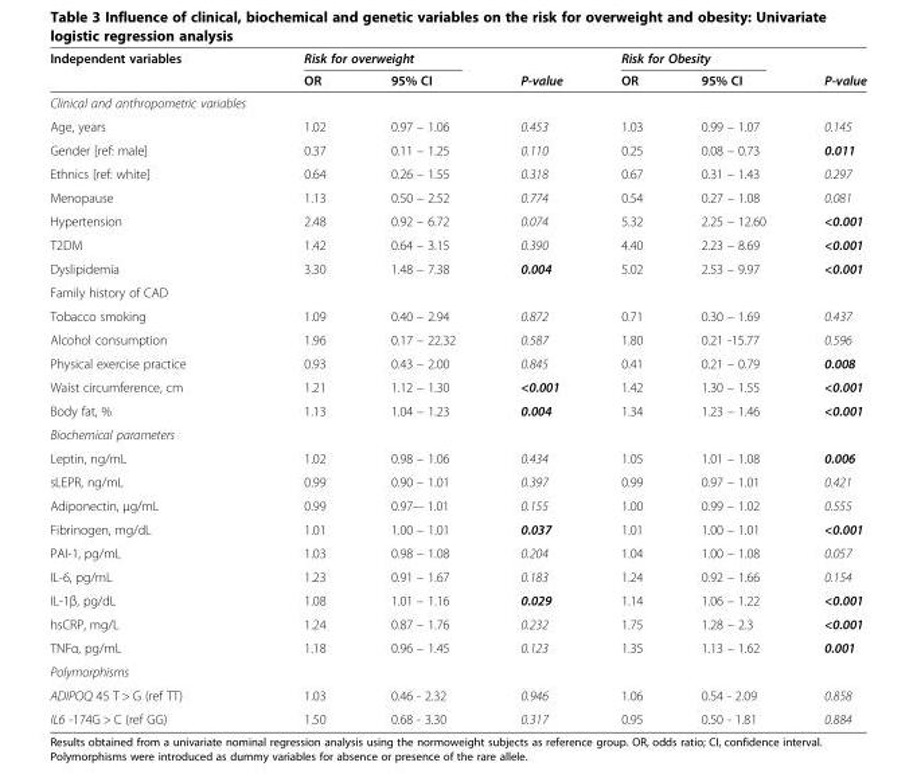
<table><thead><tr><td rowspan="2">Independent variables</td><td colspan="2">Risk for overweight</td><td rowspan="2">P-value</td><td colspan="2">Risk for Obesity</td><td rowspan="2">P-value</td></tr><tr><td>OR</td><td>95% CI</td><td>OR</td><td>95% CI</td></tr></thead><tbody><tr><td colspan="7">Clinical and anthropometric variables</td></tr><tr><td>Age, years</td><td>1.02</td><td>0.97 – 1.06</td><td>0.453</td><td>1.03</td><td>0.99 – 1.07</td><td>0.145</td></tr><tr><td>Gender [ref: male]</td><td>0.37</td><td>0.11 – 1.25</td><td>0.110</td><td>0.25</td><td>0.08 – 0.73</td><td>0.011</td></tr><tr><td>Ethnics [ref: white]</td><td>0.64</td><td>0.26 – 1.55</td><td>0.318</td><td>0.67</td><td>0.31 – 1.43</td><td>0.297</td></tr><tr><td>Menopause</td><td>1.13</td><td>0.50 – 2.52</td><td>0.774</td><td>0.54</td><td>0.27 – 1.08</td><td>0.081</td></tr><tr><td>Hypertension</td><td>2.48</td><td>0.92 – 6.72</td><td>0.074</td><td>5.32</td><td>2.25 – 12.60</td><td>&lt;0.001</td></tr><tr><td>T2DM</td><td>1.42</td><td>0.64 – 3.15</td><td>0.390</td><td>4.40</td><td>2.23 – 8.69</td><td>&lt;0.001</td></tr><tr><td>Dyslipidemia</td><td>3.30</td><td>1.48 – 7.38</td><td>0.004</td><td>5.02</td><td>2.53 – 9.97</td><td>&lt;0.001</td></tr><tr><td colspan="7">Family history of CAD</td></tr><tr><td>Tobacco smoking</td><td>1.09</td><td>0.40 – 2.94</td><td>0.872</td><td>0.71</td><td>0.30 – 1.69</td><td>0.437</td></tr><tr><td>Alcohol consumption</td><td>1.96</td><td>0.17 – 22.32</td><td>0.587</td><td>1.80</td><td>0.21 -15.77</td><td>0.596</td></tr><tr><td>Physical exercise practice</td><td>0.93</td><td>0.43 – 2.00</td><td>0.845</td><td>0.41</td><td>0.21 – 0.79</td><td>0.008</td></tr><tr><td>Waist circumference, cm</td><td>1.21</td><td>1.12 – 1.30</td><td>&lt;0.001</td><td>1.42</td><td>1.30 – 1.55</td><td>&lt;0.001</td></tr><tr><td>Body fat, %</td><td>1.13</td><td>1.04 – 1.23</td><td>0.004</td><td>1.34</td><td>1.23 – 1.46</td><td>&lt;0.001</td></tr><tr><td colspan="7">Biochemical parameters</td></tr><tr><td>Leptin, ng/mL</td><td>1.02</td><td>0.98 – 1.06</td><td>0.434</td><td>1.05</td><td>1.01 – 1.08</td><td>0.006</td></tr><tr><td>sLEPR, ng/mL</td><td>0.99</td><td>0.90 – 1.01</td><td>0.397</td><td>0.99</td><td>0.97 – 1.01</td><td>0.421</td></tr><tr><td>Adiponectin, μg/mL</td><td>0.99</td><td>0.97–- 1.01</td><td>0.155</td><td>1.00</td><td>0.99 – 1.02</td><td>0.555</td></tr><tr><td>Fibrinogen, mg/dL</td><td>1.01</td><td>1.00 – 1.01</td><td>0.037</td><td>1.01</td><td>1.00 – 1.01</td><td>&lt;0.001</td></tr><tr><td>PAI-1, pg/mL</td><td>1.03</td><td>0.98 – 1.08</td><td>0.204</td><td>1.04</td><td>1.00 – 1.08</td><td>0.057</td></tr><tr><td>IL-6, pg/mL</td><td>1.23</td><td>0.91 – 1.67</td><td>0.183</td><td>1.24</td><td>0.92 – 1.66</td><td>0.154</td></tr><tr><td>IL-1β, pg/dL</td><td>1.08</td><td>1.01 – 1.16</td><td>0.029</td><td>1.14</td><td>1.06 – 1.22</td><td>&lt;0.001</td></tr><tr><td>hsCRP, mg/L</td><td>1.24</td><td>0.87 – 1.76</td><td>0.232</td><td>1.75</td><td>1.28 – 2.3</td><td>&lt;0.001</td></tr><tr><td>TNFα, pg/mL</td><td>1.18</td><td>0.96 – 1.45</td><td>0.123</td><td>1.35</td><td>1.13 – 1.62</td><td>0.001</td></tr><tr><td colspan="7">Polymorphisms</td></tr><tr><td>ADIPOQ 45 T &gt; G (ref TT)</td><td>1.03</td><td>0.46 - 2.32</td><td>0.946</td><td>1.06</td><td>0.54 - 2.09</td><td>0.858</td></tr><tr><td>IL6 -174G &gt; C (ref GG)</td><td>1.50</td><td>0.68 - 3.30</td><td>0.317</td><td>0.95</td><td>0.50 - 1.81</td><td>0.884</td></tr></tbody></table>